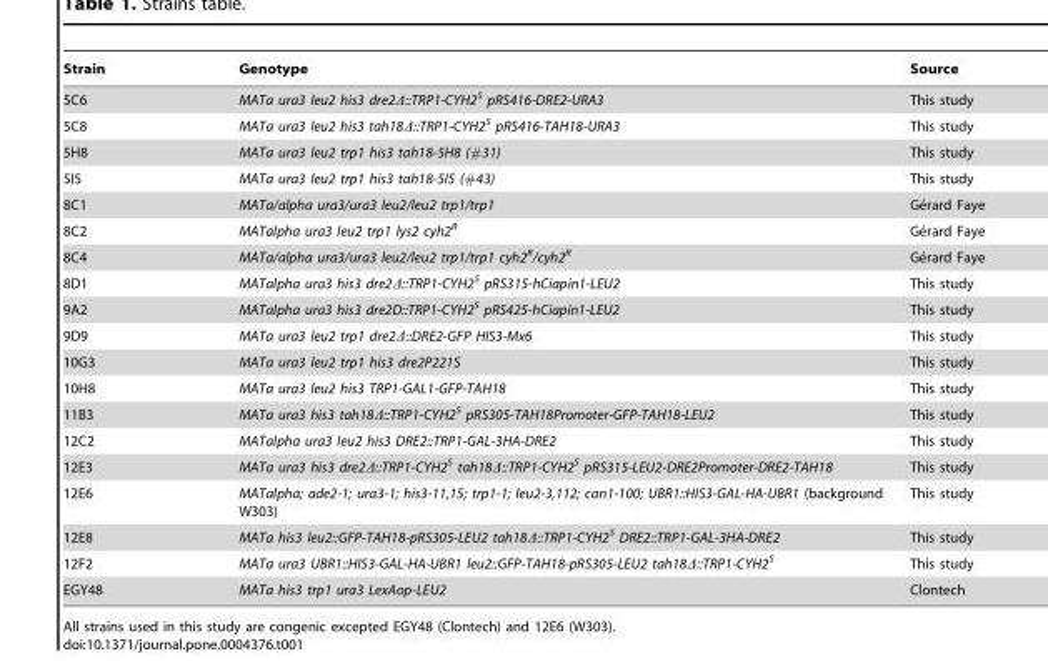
<table><thead><tr><td>Strain</td><td>Genotype</td><td>Source</td></tr></thead><tbody><tr><td>5C6</td><td>MATa ura3 leu2 his3 dre2Δ::TRP1-CYH2<sup>S</sup> pRS416-DRE2-URA3</td><td>This study</td></tr><tr><td>5C8</td><td>MATa ura3 leu2 his3 tah18Δ::TRP1-CYH2<sup>S</sup> pRS416-TAH18-URA3</td><td>This study</td></tr><tr><td>5H8</td><td>MATa ura3 leu2 trp1 his3 tah18-5H8 (#31)</td><td>This study</td></tr><tr><td>5I5</td><td>MATa ura3 leu2 trp1 his3 tah18-5I5 (#43)</td><td>This study</td></tr><tr><td>8C1</td><td>MATa/alpha ura3/ura3 leu2/leu2 trp1/trp1</td><td>Ge´rard Faye</td></tr><tr><td>8C2</td><td>MATalpha ura3 leu2 trp1 lys2 cyh2<sup>R</sup></td><td>Ge´rard Faye</td></tr><tr><td>8C4</td><td>MATa/alpha ura3/ura3 leu2/leu2 trp1/trp1 cyh2<sup>R</sup>/cyh2<sup>R</sup></td><td>Ge´rard Faye</td></tr><tr><td>8D1</td><td>MATalpha ura3 his3 dre2Δ::TRP1-CYH2<sup>S</sup> pRS315-hCiapin1-LEU2</td><td>This study</td></tr><tr><td>9A2</td><td>MATalpha ura3 his3 dre2D::TRP1-CYH2<sup>S</sup> pRS425-hCiapin1-LEU2</td><td>This study</td></tr><tr><td>9D9</td><td>MATa ura3 leu2 trp1 dre2Δ::DRE2-GFP HIS3-Mx6</td><td>This study</td></tr><tr><td>10G3</td><td>MATa ura3 leu2 trp1 his3 dre2P221S</td><td>This study</td></tr><tr><td>10H8</td><td>MATa ura3 leu2 his3 TRP1-GAL1-GFP-TAH18</td><td>This study</td></tr><tr><td>11B3</td><td>MATa ura3 his3 tah18Δ::TRP1-CYH2<sup>S</sup> pRS305-TAH18Promoter-GFP-TAH18-LEU2</td><td>This study</td></tr><tr><td>12C2</td><td>MATalpha ura3 leu2 his3 DRE2::TRP1-GAL-3HA-DRE2</td><td>This study</td></tr><tr><td>12E3</td><td>MATa ura3 his3 dre2Δ::TRP1-CYH2<sup>S</sup> tah18Δ::TRP1-CYH2<sup>S</sup> pRS315-LEU2-DRE2Promoter-DRE2-TAH18</td><td>This study</td></tr><tr><td>12E6</td><td>MATalpha; ade2-1; ura3-1; his3-11,15; trp1-1; leu2-3,112; can1-100; UBR1::HIS3-GAL-HA-UBR1 (background W303)</td><td>This study</td></tr><tr><td>12E8</td><td>MATa his3 leu2::GFP-TAH18-pRS305-LEU2 tah18Δ::TRP1-CYH2<sup>S</sup> DRE2::TRP1-GAL-3HA-DRE2</td><td>This study</td></tr><tr><td>12F2</td><td>MATa ura3 UBR1::HIS3-GAL-HA-UBR1 leu2::GFP-TAH18-pRS305-LEU2 tah18Δ::TRP1-CYH2<sup>S</sup></td><td>This study</td></tr><tr><td>EGY48</td><td>MATa his3 trp1 ura3 LexAop-LEU2</td><td>Clontech</td></tr></tbody></table>